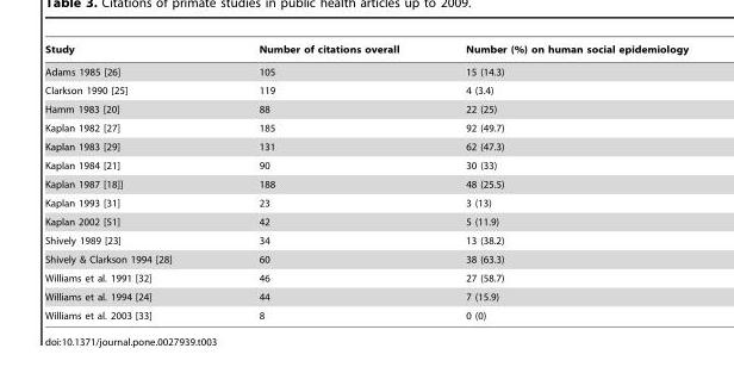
<table><thead><tr><td>Study</td><td>Number of citations overall</td><td>Number (%) on human social epidemiology</td></tr></thead><tbody><tr><td>Adams 1985 [26]</td><td>105</td><td>15 (14.3)</td></tr><tr><td>Clarkson 1990 [25]</td><td>119</td><td>4 (3.4)</td></tr><tr><td>Hamm 1983 [20]</td><td>88</td><td>22 (25)</td></tr><tr><td>Kaplan 1982 [27]</td><td>185</td><td>92 (49.7)</td></tr><tr><td>Kaplan 1983 [29]</td><td>131</td><td>62 (47.3)</td></tr><tr><td>Kaplan 1984 [21]</td><td>90</td><td>30 (33)</td></tr><tr><td>Kaplan 1987 [18]]</td><td>188</td><td>48 (25.5)</td></tr><tr><td>Kaplan 1993 [31]</td><td>23</td><td>3 (13)</td></tr><tr><td>Kaplan 2002 [51]</td><td>42</td><td>5 (11.9)</td></tr><tr><td>Shively 1989 [23]</td><td>34</td><td>13 (38.2)</td></tr><tr><td>Shively &amp; Clarkson 1994 [28]</td><td>60</td><td>38 (63.3)</td></tr><tr><td>Williams et al. 1991 [32]</td><td>46</td><td>27 (58.7)</td></tr><tr><td>Williams et al. 1994 [24]</td><td>44</td><td>7 (15.9)</td></tr><tr><td>Williams et al. 2003 [33]</td><td>8</td><td>0 (0)</td></tr></tbody></table>